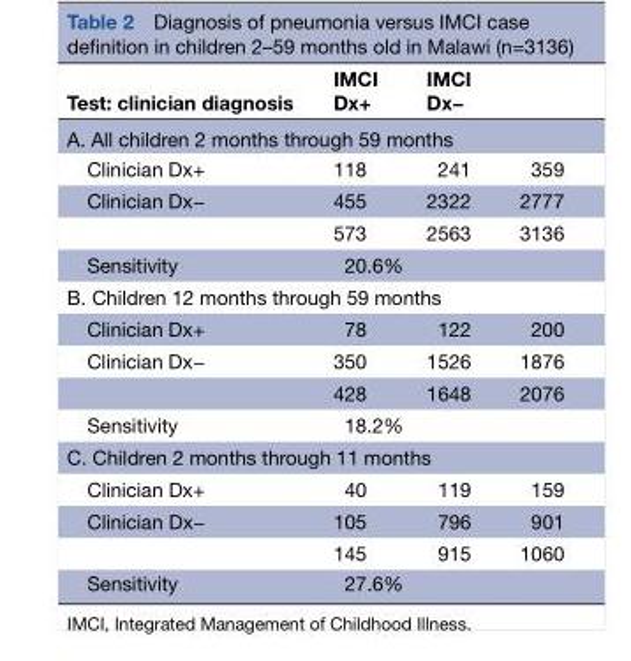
<table><thead><tr><td>Test: clinician diagnosis</td><td>IMCI Dx+</td><td>IMCI Dx−</td><td></td></tr></thead><tbody><tr><td colspan="4">A. All children 2 months through 59 months</td></tr><tr><td>Clinician Dx+</td><td>118</td><td>241</td><td>359</td></tr><tr><td rowspan="2">Clinician Dx−</td><td>455</td><td>2322</td><td>2777</td></tr><tr><td>573</td><td>2563</td><td>3136</td></tr><tr><td>Sensitivity</td><td>20.6%</td><td></td><td></td></tr><tr><td colspan="4">B. Children 12 months through 59 months</td></tr><tr><td>Clinician Dx+</td><td>78</td><td>122</td><td>200</td></tr><tr><td rowspan="2">Clinician Dx−</td><td>350</td><td>1526</td><td>1876</td></tr><tr><td>428</td><td>1648</td><td>2076</td></tr><tr><td>Sensitivity</td><td>18.2%</td><td></td><td></td></tr><tr><td colspan="4">C. Children 2 months through 11 months</td></tr><tr><td>Clinician Dx+</td><td>40</td><td>119</td><td>159</td></tr><tr><td rowspan="2">Clinician Dx−</td><td>105</td><td>796</td><td>901</td></tr><tr><td>145</td><td>915</td><td>1060</td></tr><tr><td>Sensitivity</td><td>27.6%</td><td></td><td></td></tr></tbody></table>